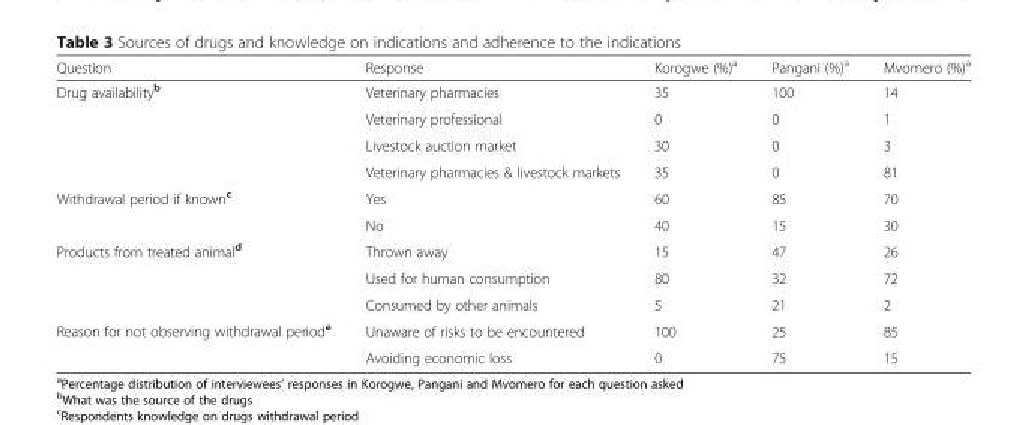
<table><thead><tr><td>Question</td><td>Response</td><td>Korogwe (%)<sup>a</sup></td><td>Pangani (%)<sup>a</sup></td><td>Mvomero (%)<sup>a</sup></td></tr></thead><tbody><tr><td rowspan="4">Drug availability<sup>b</sup></td><td>Veterinary pharmacies</td><td>35</td><td>100</td><td>14</td></tr><tr><td>Veterinary professional</td><td>0</td><td>0</td><td>1</td></tr><tr><td>Livestock auction market</td><td>30</td><td>0</td><td>3</td></tr><tr><td>Veterinary pharmacies &amp; livestock markets</td><td>35</td><td>0</td><td>81</td></tr><tr><td rowspan="2">Withdrawal period if known<sup>c</sup></td><td>Yes</td><td>60</td><td>85</td><td>70</td></tr><tr><td>No</td><td>40</td><td>15</td><td>30</td></tr><tr><td rowspan="3">Products from treated animal<sup>d</sup></td><td>Thrown away</td><td>15</td><td>47</td><td>26</td></tr><tr><td>Used for human consumption</td><td>80</td><td>32</td><td>72</td></tr><tr><td>Consumed by other animals</td><td>5</td><td>21</td><td>2</td></tr><tr><td rowspan="2">Reason for not observing withdrawal period<sup>e</sup></td><td>Unaware of risks to be encountered</td><td>100</td><td>25</td><td>85</td></tr><tr><td>Avoiding economic loss</td><td>0</td><td>75</td><td>15</td></tr></tbody></table>